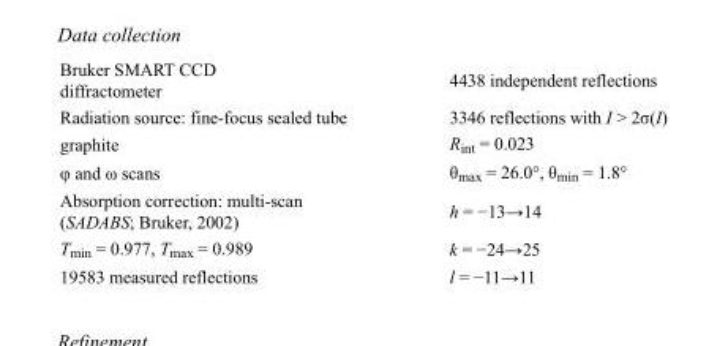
<table><tbody><tr><td>Bruker SMART CCD diffractometer</td><td>4438 independent reflections</td></tr><tr><td>Radiation source: fine-focus sealed tube</td><td>3346 reflections with I &gt; 2σ(I)</td></tr><tr><td>graphite</td><td>R<sub>int</sub> = 0.023</td></tr><tr><td>φ and ω scans</td><td>θ<sub>max</sub> = 26.0°, θ<sub>min</sub> = 1.8°</td></tr><tr><td>Absorption correction: multi-scan (SADABS; Bruker, 2002)</td><td>h = −13→14</td></tr><tr><td>T<sub>min</sub> = 0.977, T<sub>max</sub> = 0.989</td><td>k = −24→25</td></tr><tr><td>19583 measured reflections</td><td>l = −11→11</td></tr></tbody></table>